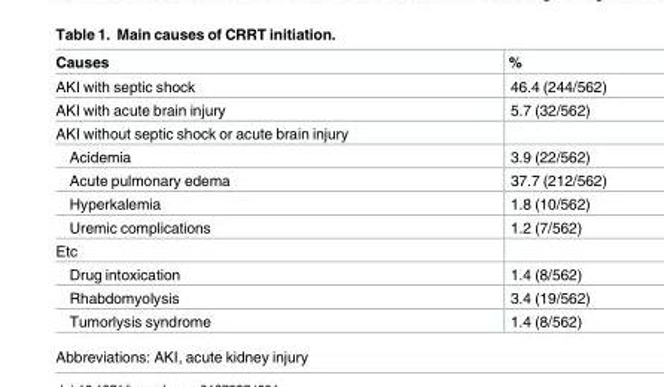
<table><thead><tr><td>Causes</td><td>%</td></tr></thead><tbody><tr><td>AKI with septic shock</td><td>46.4 (244/562)</td></tr><tr><td>AKI with acute brain injury</td><td>5.7 (32/562)</td></tr><tr><td colspan="2">AKI without septic shock or acute brain injury</td></tr><tr><td>Acidemia</td><td>3.9 (22/562)</td></tr><tr><td>Acute pulmonary edema</td><td>37.7 (212/562)</td></tr><tr><td>Hyperkalemia</td><td>1.8 (10/562)</td></tr><tr><td>Uremic complications</td><td>1.2 (7/562)</td></tr><tr><td colspan="2">Etc</td></tr><tr><td>Drug intoxication</td><td>1.4 (8/562)</td></tr><tr><td>Rhabdomyolysis</td><td>3.4 (19/562)</td></tr><tr><td>Tumorlysis syndrome</td><td>1.4 (8/562)</td></tr></tbody></table>